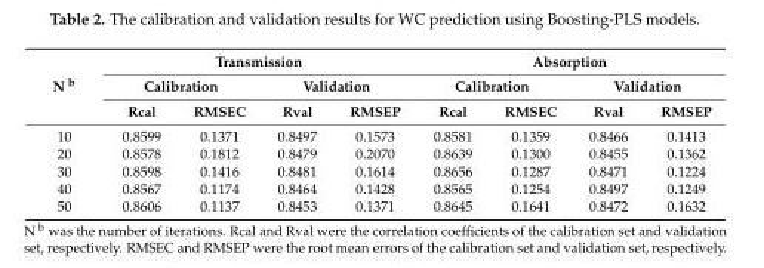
<table><thead><tr><td rowspan="3">N <sup>b</sup></td><td colspan="4">Transmission</td><td colspan="4">Absorption</td></tr><tr><td colspan="2">Calibration</td><td colspan="2">Validation</td><td colspan="2">Calibration</td><td colspan="2">Validation</td></tr><tr><td>Rcal</td><td>RMSEC</td><td>Rval</td><td>RMSEP</td><td>Rcal</td><td>RMSEC</td><td>Rval</td><td>RMSEP</td></tr></thead><tbody><tr><td>10</td><td>0.8599</td><td>0.1371</td><td>0.8497</td><td>0.1573</td><td>0.8581</td><td>0.1359</td><td>0.8466</td><td>0.1413</td></tr><tr><td>20</td><td>0.8578</td><td>0.1812</td><td>0.8479</td><td>0.2070</td><td>0.8639</td><td>0.1300</td><td>0.8455</td><td>0.1362</td></tr><tr><td>30</td><td>0.8598</td><td>0.1416</td><td>0.8481</td><td>0.1614</td><td>0.8656</td><td>0.1287</td><td>0.8471</td><td>0.1224</td></tr><tr><td>40</td><td>0.8567</td><td>0.1174</td><td>0.8464</td><td>0.1428</td><td>0.8565</td><td>0.1254</td><td>0.8497</td><td>0.1249</td></tr><tr><td>50</td><td>0.8606</td><td>0.1137</td><td>0.8453</td><td>0.1371</td><td>0.8645</td><td>0.1641</td><td>0.8472</td><td>0.1632</td></tr></tbody></table>